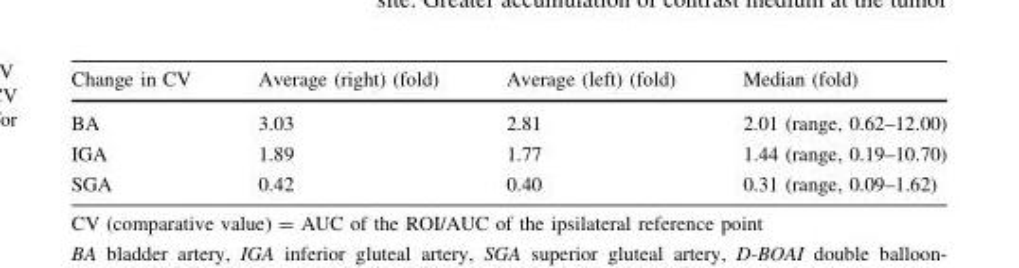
<table><thead><tr><td>Change in CV</td><td>Average (right) (fold)</td><td>Average (left) (fold)</td><td>Median (fold)</td></tr></thead><tbody><tr><td>BA</td><td>3.03</td><td>2.81</td><td>2.01 (range, 0.62–12.00)</td></tr><tr><td>IGA</td><td>1.89</td><td>1.77</td><td>1.44 (range, 0.19–10.70)</td></tr><tr><td>SGA</td><td>0.42</td><td>0.40</td><td>0.31 (range, 0.09–1.62)</td></tr></tbody></table>